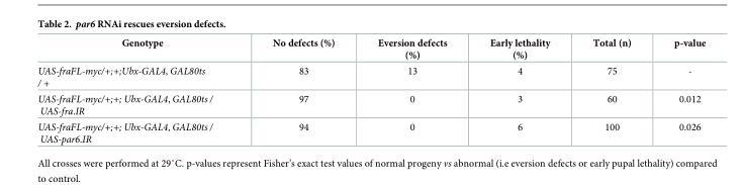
<table><thead><tr><td>Genotype</td><td>No defects (%)</td><td>Eversion defects (%)</td><td>Early lethality (%)</td><td>Total (n)</td><td>p-value</td></tr></thead><tbody><tr><td>UAS-fraFL-myc/+;+;Ubx-GAL4, GAL80ts / +</td><td>83</td><td>13</td><td>4</td><td>75</td><td>-</td></tr><tr><td>UAS-fraFL-myc/+;+; Ubx-GAL4, GAL80ts / UAS-fra.IR</td><td>97</td><td>0</td><td>3</td><td>60</td><td>0.012</td></tr><tr><td>UAS-fraFL-myc/+;+; Ubx-GAL4, GAL80ts / UAS-par6.IR</td><td>94</td><td>0</td><td>6</td><td>100</td><td>0.026</td></tr></tbody></table>